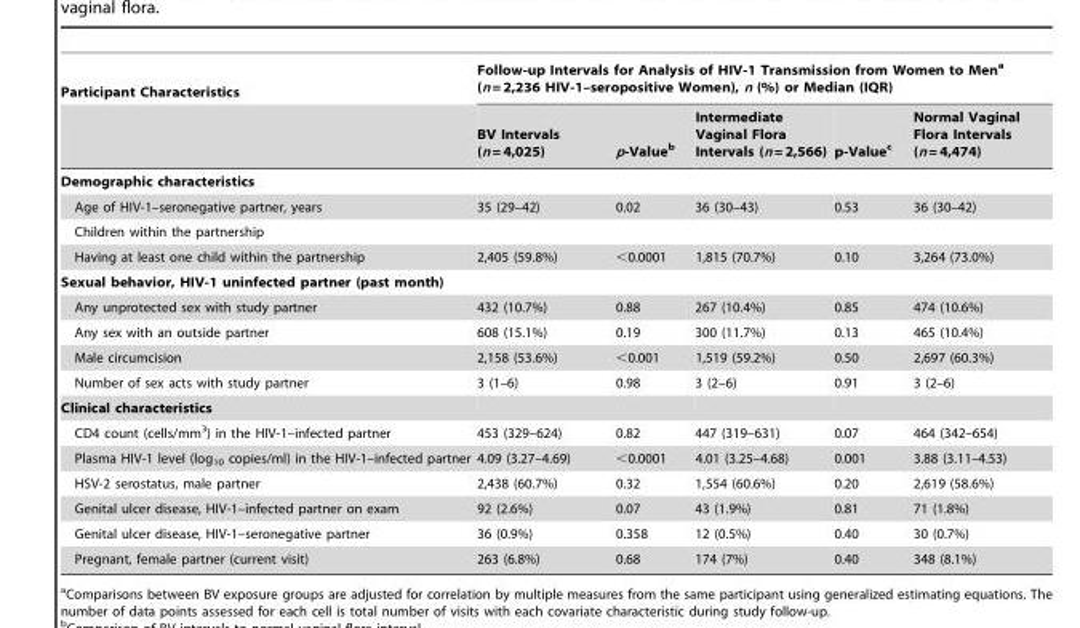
<table><thead><tr><td rowspan="2">Participant Characteristics</td><td colspan="5">Follow-up Intervals for Analysis of HIV-1 Transmission from Women to Men<sup>a</sup> (n = 2,236 HIV-1–seropositive Women), n (%) or Median (IQR)</td></tr><tr><td>BV Intervals (n = 4,025)</td><td>p-Value<sup>b</sup></td><td>Intermediate Vaginal Flora Intervals (n = 2,566)</td><td>p-Value<sup>c</sup></td><td>Normal Vaginal Flora Intervals (n = 4,474)</td></tr></thead><tbody><tr><td colspan="6">Demographic characteristics</td></tr><tr><td>Age of HIV-1–seronegative partner, years</td><td>35 (29–42)</td><td>0.02</td><td>36 (30–43)</td><td>0.53</td><td>36 (30–42)</td></tr><tr><td colspan="6">Children within the partnership</td></tr><tr><td>Having at least one child within the partnership</td><td>2,405 (59.8%)</td><td>&lt;0.0001</td><td>1,815 (70.7%)</td><td>0.10</td><td>3,264 (73.0%)</td></tr><tr><td colspan="6">Sexual behavior, HIV-1 uninfected partner (past month)</td></tr><tr><td>Any unprotected sex with study partner</td><td>432 (10.7%)</td><td>0.88</td><td>267 (10.4%)</td><td>0.85</td><td>474 (10.6%)</td></tr><tr><td>Any sex with an outside partner</td><td>608 (15.1%)</td><td>0.19</td><td>300 (11.7%)</td><td>0.13</td><td>465 (10.4%)</td></tr><tr><td>Male circumcision</td><td>2,158 (53.6%)</td><td>&lt;0.001</td><td>1,519 (59.2%)</td><td>0.50</td><td>2,697 (60.3%)</td></tr><tr><td>Number of sex acts with study partner</td><td>3 (1–6)</td><td>0.98</td><td>3 (2–6)</td><td>0.91</td><td>3 (2–6)</td></tr><tr><td colspan="6">Clinical characteristics</td></tr><tr><td>CD4 count (cells/mm<sup>3</sup>) in the HIV-1–infected partner</td><td>453 (329–624)</td><td>0.82</td><td>447 (319–631)</td><td>0.07</td><td>464 (342–654)</td></tr><tr><td>Plasma HIV-1 level (log<sub>10</sub> copies/ml) in the HIV-1–infected partner</td><td>4.09 (3.27–4.69)</td><td>&lt;0.0001</td><td>4.01 (3.25–4.68)</td><td>0.001</td><td>3.88 (3.11–4.53)</td></tr><tr><td>HSV-2 serostatus, male partner</td><td>2,438 (60.7%)</td><td>0.32</td><td>1,554 (60.6%)</td><td>0.20</td><td>2,619 (58.6%)</td></tr><tr><td>Genital ulcer disease, HIV-1–infected partner on exam</td><td>92 (2.6%)</td><td>0.07</td><td>43 (1.9%)</td><td>0.81</td><td>71 (1.8%)</td></tr><tr><td>Genital ulcer disease, HIV-1–seronegative partner</td><td>36 (0.9%)</td><td>0.358</td><td>12 (0.5%)</td><td>0.40</td><td>30 (0.7%)</td></tr><tr><td>Pregnant, female partner (current visit)</td><td>263 (6.8%)</td><td>0.68</td><td>174 (7%)</td><td>0.40</td><td>348 (8.1%)</td></tr></tbody></table>